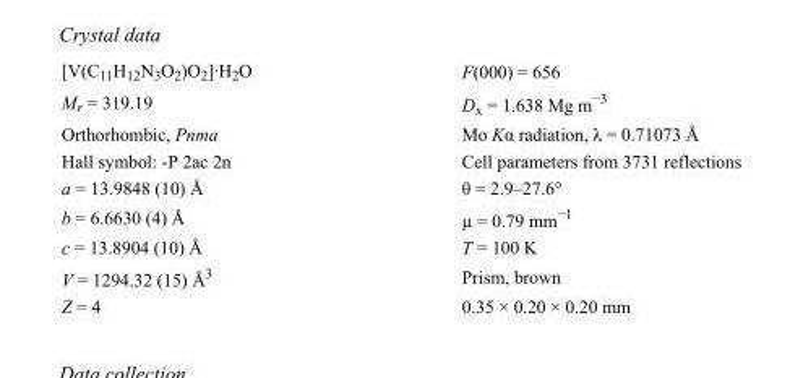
<table><tbody><tr><td>[V(C<sub>11</sub>H<sub>12</sub>N<sub>3</sub>O<sub>2</sub>)O<sub>2</sub>]·H<sub>2</sub>O</td><td>F(000) = 656</td></tr><tr><td>M<sub>r</sub> = 319.19</td><td>D<sub>x</sub> = 1.638 Mg m<sup>−3</sup></td></tr><tr><td>Orthorhombic, Pnma</td><td>Mo Kα radiation, λ = 0.71073 Å</td></tr><tr><td>Hall symbol: -P 2ac 2n</td><td>Cell parameters from 3731 reflections</td></tr><tr><td>a = 13.9848 (10) Å</td><td>θ = 2.9–27.6°</td></tr><tr><td>b = 6.6630 (4) Å</td><td>µ = 0.79 mm<sup>−1</sup></td></tr><tr><td>c = 13.8904 (10) Å</td><td>T = 100 K</td></tr><tr><td>V = 1294.32 (15) Å<sup>3</sup></td><td>Prism, brown</td></tr><tr><td>Z = 4</td><td>0.35 × 0.20 × 0.20 mm</td></tr></tbody></table>